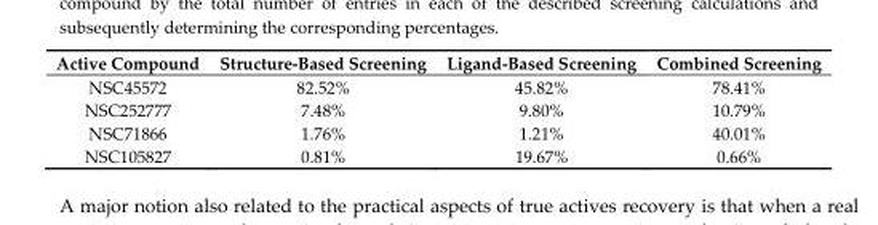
<table><thead><tr><td>Active Compound</td><td>Structure-Based Screening</td><td>Ligand-Based Screening</td><td>Combined Screening</td></tr></thead><tbody><tr><td>NSC45572</td><td>82.52%</td><td>45.82%</td><td>78.41%</td></tr><tr><td>NSC252777</td><td>7.48%</td><td>9.80%</td><td>10.79%</td></tr><tr><td>NSC71866</td><td>1.76%</td><td>1.21%</td><td>40.01%</td></tr><tr><td>NSC105827</td><td>0.81%</td><td>19.67%</td><td>0.66%</td></tr></tbody></table>